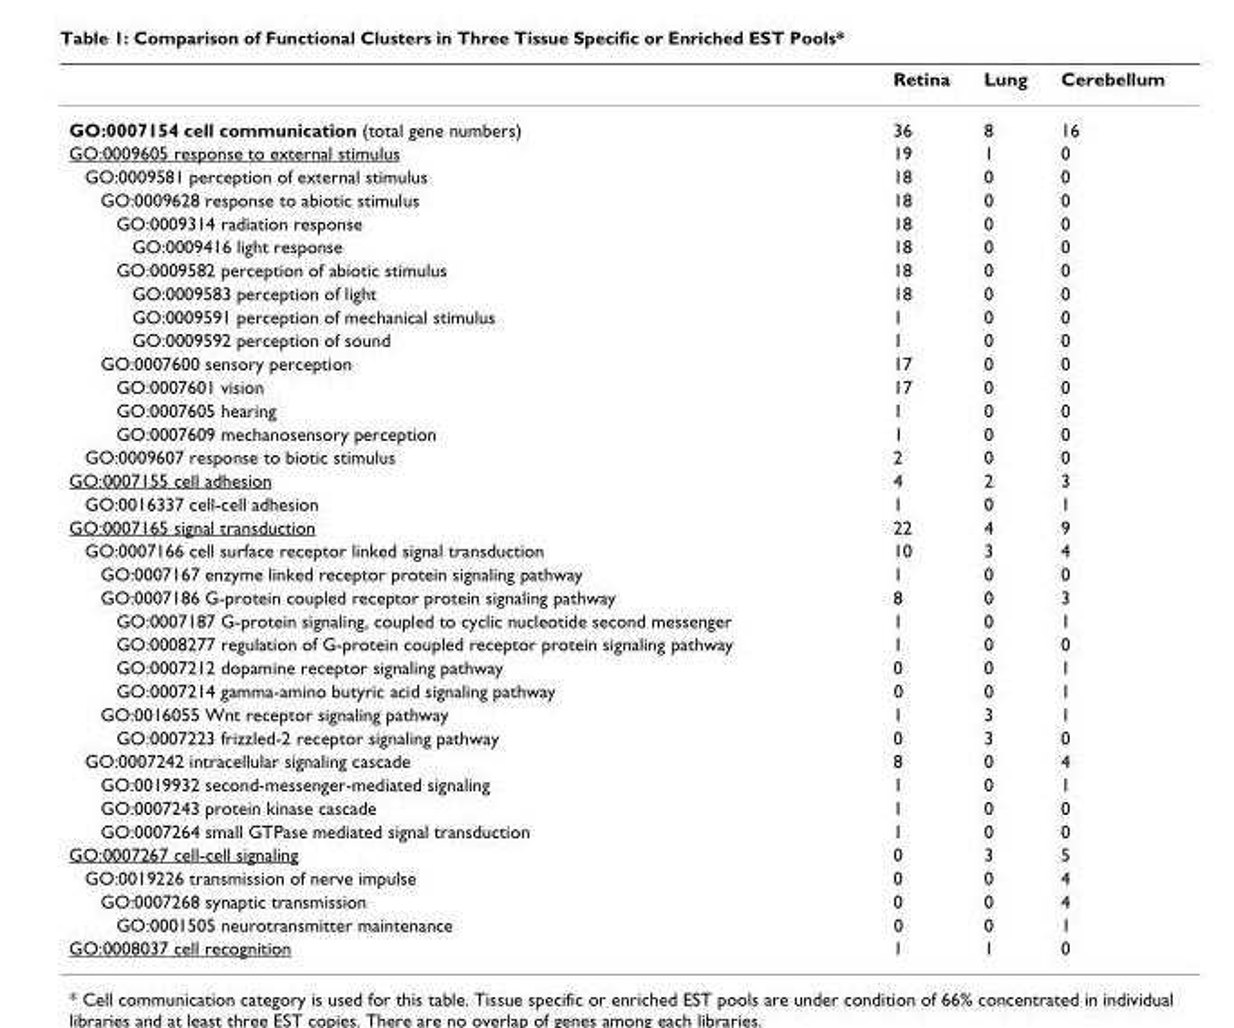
<table><thead><tr><td></td><td>Retina</td><td>Lung</td><td>Cerebellum</td></tr></thead><tbody><tr><td>GO:0007154 cell communication (total gene numbers)</td><td>36</td><td>8</td><td>16</td></tr><tr><td>GO:0009605 response to external stimulus</td><td>19</td><td>1</td><td>0</td></tr><tr><td>GO:0009581 perception of external stimulus</td><td>18</td><td>0</td><td>0</td></tr><tr><td>GO:0009628 response to abiotic stimulus</td><td>18</td><td>0</td><td>0</td></tr><tr><td>GO:0009314 radiation response</td><td>18</td><td>0</td><td>0</td></tr><tr><td>GO:0009416 light response</td><td>18</td><td>0</td><td>0</td></tr><tr><td>GO:0009582 perception of abiotic stimulus</td><td>18</td><td>0</td><td>0</td></tr><tr><td>GO:0009583 perception of light</td><td>18</td><td>0</td><td>0</td></tr><tr><td>GO:0009591 perception of mechanical stimulus</td><td>1</td><td>0</td><td>0</td></tr><tr><td>GO:0009592 perception of sound</td><td>1</td><td>0</td><td>0</td></tr><tr><td>GO:0007600 sensory perception</td><td>17</td><td>0</td><td>0</td></tr><tr><td>GO:0007601 vision</td><td>17</td><td>0</td><td>0</td></tr><tr><td>GO:0007605 hearing</td><td>1</td><td>0</td><td>0</td></tr><tr><td>GO:0007609 mechanosensory perception</td><td>1</td><td>0</td><td>0</td></tr><tr><td>GO:0009607 response to biotic stimulus</td><td>2</td><td>0</td><td>0</td></tr><tr><td>GO:0007155 cell adhesion</td><td>4</td><td>2</td><td>3</td></tr><tr><td>GO:0016337 cell-cell adhesion</td><td>1</td><td>0</td><td>1</td></tr><tr><td>GO:0007165 signal transduction</td><td>22</td><td>4</td><td>9</td></tr><tr><td>GO:0007166 cell surface receptor linked signal transduction</td><td>10</td><td>3</td><td>4</td></tr><tr><td>GO:0007167 enzyme linked receptor protein signaling pathway</td><td>1</td><td>0</td><td>0</td></tr><tr><td>GO:0007186 G-protein coupled receptor protein signaling pathway</td><td>8</td><td>0</td><td>3</td></tr><tr><td>GO:0007187 G-protein signaling, coupled to cyclic nucleotide second messenger</td><td>1</td><td>0</td><td>1</td></tr><tr><td>GO:0008277 regulation of G-protein coupled receptor protein signaling pathway</td><td>1</td><td>0</td><td>0</td></tr><tr><td>GO:0007212 dopamine receptor signaling pathway</td><td>0</td><td>0</td><td>1</td></tr><tr><td>GO:0007214 gamma-amino butyric acid signaling pathway</td><td>0</td><td>0</td><td>1</td></tr><tr><td>GO:0016055 Wnt receptor signaling pathway</td><td>1</td><td>3</td><td>1</td></tr><tr><td>GO:0007223 frizzled-2 receptor signaling pathway</td><td>0</td><td>3</td><td>0</td></tr><tr><td>GO:0007242 intracellular signaling cascade</td><td>8</td><td>0</td><td>4</td></tr><tr><td>GO:0019932 second-messenger-mediated signaling</td><td>1</td><td>0</td><td>1</td></tr><tr><td>GO:0007243 protein kinase cascade</td><td>1</td><td>0</td><td>0</td></tr><tr><td>GO:0007264 small GTPase mediated signal transduction</td><td>1</td><td>0</td><td>0</td></tr><tr><td>GO:0007267 cell-cell signaling</td><td>0</td><td>3</td><td>5</td></tr><tr><td>GO:0019226 transmission of nerve impulse</td><td>0</td><td>0</td><td>4</td></tr><tr><td>GO:0007268 synaptic transmission</td><td>0</td><td>0</td><td>4</td></tr><tr><td>GO:0001505 neurotransmitter maintenance</td><td>0</td><td>0</td><td>1</td></tr><tr><td>GO:0008037 cell recognition</td><td>1</td><td>1</td><td>0</td></tr></tbody></table>